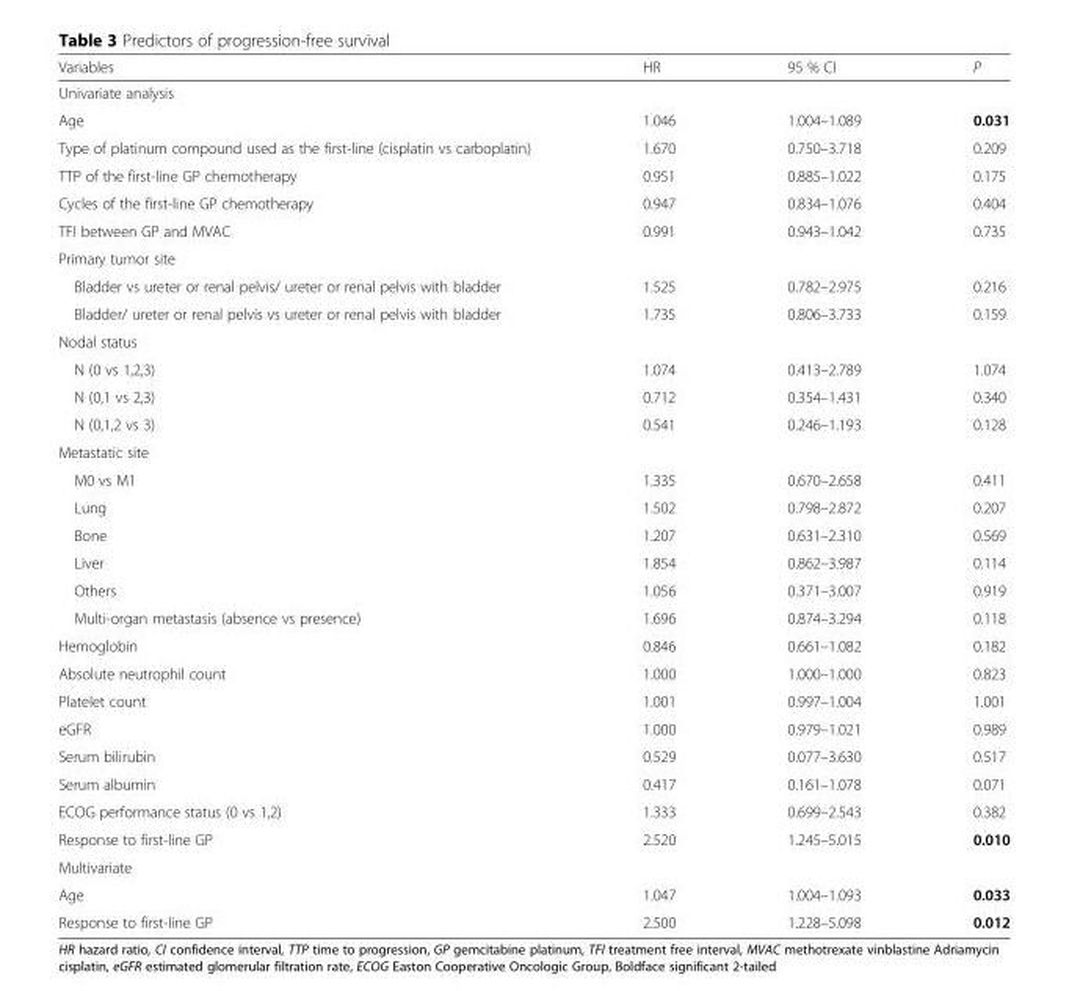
<table><thead><tr><td>Variables</td><td>HR</td><td>95 % CI</td><td>P</td></tr></thead><tbody><tr><td colspan="4">Univariate analysis</td></tr><tr><td>Age</td><td>1.046</td><td>1.004–1.089</td><td>0.031</td></tr><tr><td>Type of platinum compound used as the first-line (cisplatin vs carboplatin)</td><td>1.670</td><td>0.750–3.718</td><td>0.209</td></tr><tr><td>TTP of the first-line GP chemotherapy</td><td>0.951</td><td>0.885–1.022</td><td>0.175</td></tr><tr><td>Cycles of the first-line GP chemotherapy</td><td>0.947</td><td>0.834–1.076</td><td>0.404</td></tr><tr><td>TFI between GP and MVAC</td><td>0.991</td><td>0.943–1.042</td><td>0.735</td></tr><tr><td colspan="4">Primary tumor site</td></tr><tr><td>Bladder vs ureter or renal pelvis/ ureter or renal pelvis with bladder</td><td>1.525</td><td>0.782–2.975</td><td>0.216</td></tr><tr><td>Bladder/ ureter or renal pelvis vs ureter or renal pelvis with bladder</td><td>1.735</td><td>0.806–3.733</td><td>0.159</td></tr><tr><td colspan="4">Nodal status</td></tr><tr><td>N (0 vs 1,2,3)</td><td>1.074</td><td>0.413–2.789</td><td>1.074</td></tr><tr><td>N (0,1 vs 2,3)</td><td>0.712</td><td>0.354–1.431</td><td>0.340</td></tr><tr><td>N (0,1,2 vs 3)</td><td>0.541</td><td>0.246–1.193</td><td>0.128</td></tr><tr><td colspan="4">Metastatic site</td></tr><tr><td>M0 vs M1</td><td>1.335</td><td>0.670–2.658</td><td>0.411</td></tr><tr><td>Lung</td><td>1.502</td><td>0.798–2.872</td><td>0.207</td></tr><tr><td>Bone</td><td>1.207</td><td>0.631–2.310</td><td>0.569</td></tr><tr><td>Liver</td><td>1.854</td><td>0.862–3.987</td><td>0.114</td></tr><tr><td>Others</td><td>1.056</td><td>0.371–3.007</td><td>0.919</td></tr><tr><td>Multi-organ metastasis (absence vs presence)</td><td>1.696</td><td>0.874–3.294</td><td>0.118</td></tr><tr><td>Hemoglobin</td><td>0.846</td><td>0.661–1.082</td><td>0.182</td></tr><tr><td>Absolute neutrophil count</td><td>1.000</td><td>1.000–1.000</td><td>0.823</td></tr><tr><td>Platelet count</td><td>1.001</td><td>0.997–1.004</td><td>1.001</td></tr><tr><td>eGFR</td><td>1.000</td><td>0.979–1.021</td><td>0.989</td></tr><tr><td>Serum bilirubin</td><td>0.529</td><td>0.077–3.630</td><td>0.517</td></tr><tr><td>Serum albumin</td><td>0.417</td><td>0.161–1.078</td><td>0.071</td></tr><tr><td>ECOG performance status (0 vs 1,2)</td><td>1.333</td><td>0.699–2.543</td><td>0.382</td></tr><tr><td>Response to first-line GP</td><td>2.520</td><td>1.245–5.015</td><td>0.010</td></tr><tr><td colspan="4">Multivariate</td></tr><tr><td>Age</td><td>1.047</td><td>1.004–1.093</td><td>0.033</td></tr><tr><td>Response to first-line GP</td><td>2.500</td><td>1.228–5.098</td><td>0.012</td></tr></tbody></table>